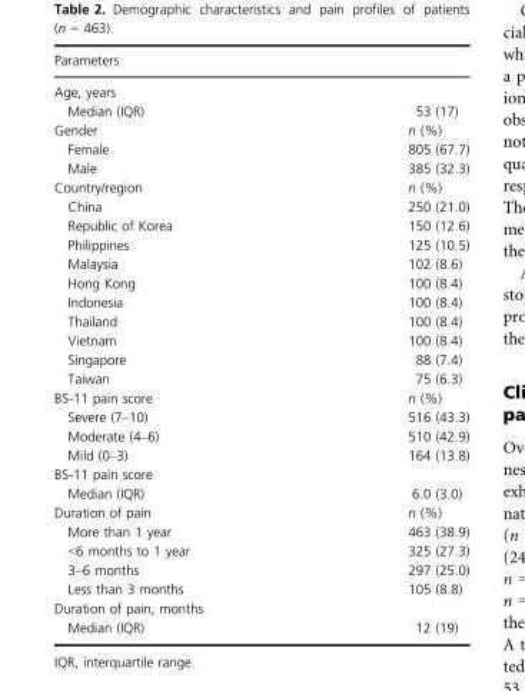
<table><thead><tr><td>Parameters</td><td></td></tr></thead><tbody><tr><td colspan="2">Age, years</td></tr><tr><td>Median (IQR)</td><td>53 (17)</td></tr><tr><td>Gender</td><td>n (%)</td></tr><tr><td>Female</td><td>805 (67.7)</td></tr><tr><td>Male</td><td>385 (32.3)</td></tr><tr><td>Country/region</td><td>n (%)</td></tr><tr><td>China</td><td>250 (21.0)</td></tr><tr><td>Republic of Korea</td><td>150 (12.6)</td></tr><tr><td>Philippines</td><td>125 (10.5)</td></tr><tr><td>Malaysia</td><td>102 (8.6)</td></tr><tr><td>Hong Kong</td><td>100 (8.4)</td></tr><tr><td>Indonesia</td><td>100 (8.4)</td></tr><tr><td>Thailand</td><td>100 (8.4)</td></tr><tr><td>Vietnam</td><td>100 (8.4)</td></tr><tr><td>Singapore</td><td>88 (7.4)</td></tr><tr><td>Taiwan</td><td>75 (6.3)</td></tr><tr><td>BS-11 pain score</td><td>n (%)</td></tr><tr><td>Severe (7–10)</td><td>516 (43.3)</td></tr><tr><td>Moderate (4–6)</td><td>510 (42.9)</td></tr><tr><td>Mild (0–3)</td><td>164 (13.8)</td></tr><tr><td colspan="2">BS-11 pain score</td></tr><tr><td>Median (IQR)</td><td>6.0 (3.0)</td></tr><tr><td>Duration of pain</td><td>n (%)</td></tr><tr><td>More than 1 year</td><td>463 (38.9)</td></tr><tr><td>&lt;6 months to 1 year</td><td>325 (27.3)</td></tr><tr><td>3–6 months</td><td>297 (25.0)</td></tr><tr><td>Less than 3 months</td><td>105 (8.8)</td></tr><tr><td colspan="2">Duration of pain, months</td></tr><tr><td>Median (IQR)</td><td>12 (19)</td></tr></tbody></table>